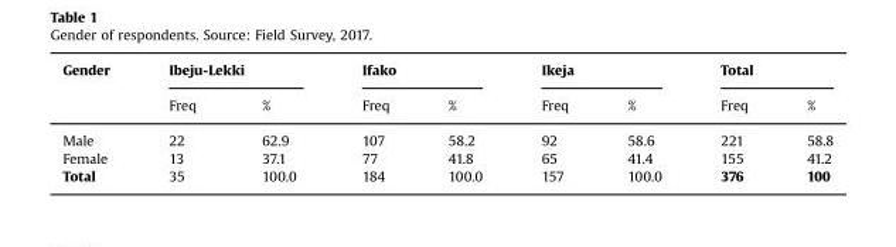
<table><thead><tr><td rowspan="2">Gender</td><td colspan="2">Ibeju-Lekki</td><td colspan="2">Ifako</td><td colspan="2">Ikeja</td><td colspan="2">Total</td></tr><tr><td>Freq</td><td>%</td><td>Freq</td><td>%</td><td>Freq</td><td>%</td><td>Freq</td><td>%</td></tr></thead><tbody><tr><td>Male</td><td>22</td><td>62.9</td><td>107</td><td>58.2</td><td>92</td><td>58.6</td><td>221</td><td>58.8</td></tr><tr><td>Female</td><td>13</td><td>37.1</td><td>77</td><td>41.8</td><td>65</td><td>41.4</td><td>155</td><td>41.2</td></tr><tr><td>Total</td><td>35</td><td>100.0</td><td>184</td><td>100.0</td><td>157</td><td>100.0</td><td>376</td><td>100</td></tr></tbody></table>